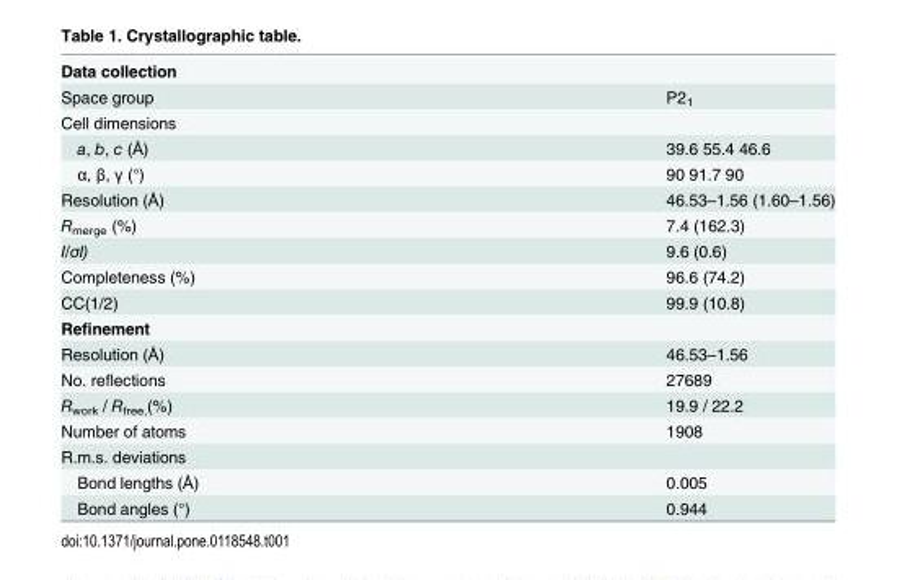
<table><tbody><tr><td colspan="2">Data collection</td></tr><tr><td>Space group</td><td>P2<sub>1</sub></td></tr><tr><td colspan="2">Cell dimensions</td></tr><tr><td>a, b, c (Å)</td><td>39.6 55.4 46.6</td></tr><tr><td>α, β, γ (°)</td><td>90 91.7 90</td></tr><tr><td>Resolution (Å)</td><td>46.53–1.56 (1.60–1.56)</td></tr><tr><td>R<sub>merge</sub> (%)</td><td>7.4 (162.3)</td></tr><tr><td>I/σI)</td><td>9.6 (0.6)</td></tr><tr><td>Completeness (%)</td><td>96.6 (74.2)</td></tr><tr><td>CC(1/2)</td><td>99.9 (10.8)</td></tr><tr><td colspan="2">Refinement</td></tr><tr><td>Resolution (Å)</td><td>46.53–1.56</td></tr><tr><td>No. reflections</td><td>27689</td></tr><tr><td>R<sub>work</sub> / R<sub>free,</sub>(%)</td><td>19.9 / 22.2</td></tr><tr><td>Number of atoms</td><td>1908</td></tr><tr><td colspan="2">R.m.s. deviations</td></tr><tr><td>Bond lengths (Å)</td><td>0.005</td></tr><tr><td>Bond angles (°)</td><td>0.944</td></tr></tbody></table>